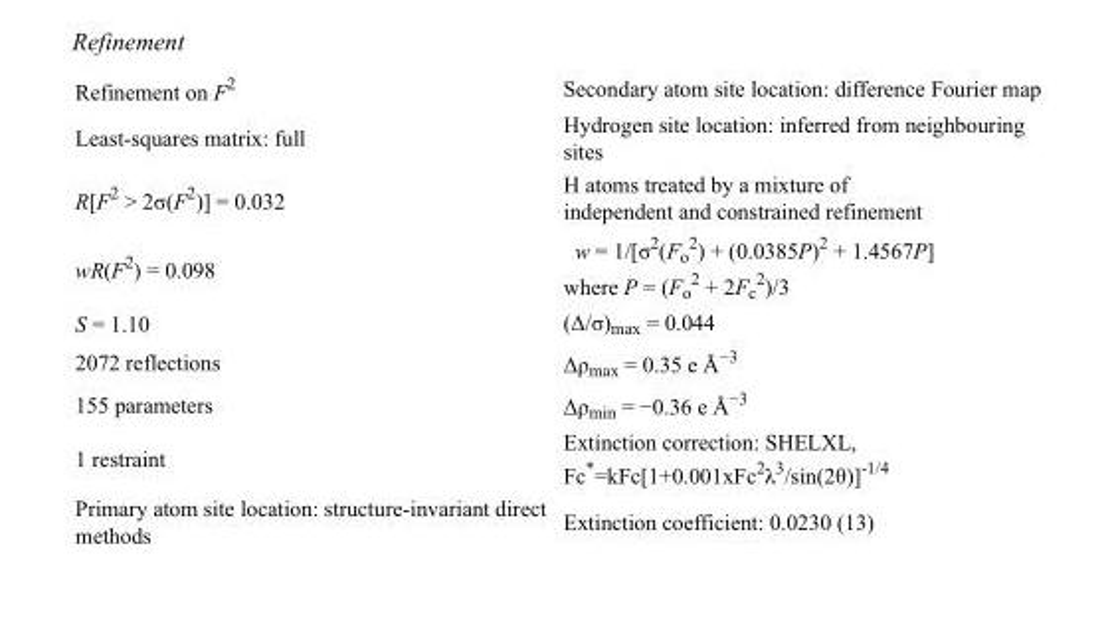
<table><tbody><tr><td>Refinement on F<sup>2</sup></td><td>Secondary atom site location: difference Fourier map</td></tr><tr><td>Least-squares matrix: full</td><td>Hydrogen site location: inferred from neighbouring sites</td></tr><tr><td>R[F<sup>2</sup> &gt; 2σ(F<sup>2</sup>)] = 0.032</td><td>H atoms treated by a mixture of independent and constrained refinement</td></tr><tr><td>wR(F<sup>2</sup>) = 0.098</td><td>w = 1/[σ<sup>2</sup>(F<sub>o</sub> <sup>2</sup>) + (0.0385P)<sup>2</sup> + 1.4567P] where P = (F<sub>o</sub> <sup>2</sup> + 2F<sub>c</sub> <sup>2</sup>)/3</td></tr><tr><td>S = 1.10</td><td>(Δ/σ)<sub>max</sub> = 0.044</td></tr><tr><td>2072 reflections</td><td>Δρ<sub>max</sub> = 0.35 e Å<sup>−3</sup></td></tr><tr><td>155 parameters</td><td>Δρ<sub>min</sub> = −0.36 e Å<sup>−3</sup></td></tr><tr><td>1 restraint</td><td>Extinction correction: SHELXL, Fc*=kFc[1+0.001xFc<sup>2</sup>λ<sup>3</sup>/sin(2θ)]<sup>-1/4</sup></td></tr><tr><td>Primary atom site location: structure-invariant direct methods</td><td>Extinction coefficient: 0.0230 (13)</td></tr></tbody></table>